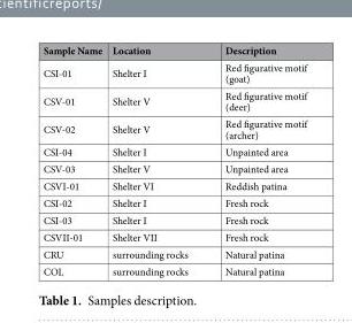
<table><thead><tr><td>Sample Name</td><td>Location</td><td>Description</td></tr></thead><tbody><tr><td>CSI-01</td><td>Shelter I</td><td>Red figurative motif (goat)</td></tr><tr><td>CSV-01</td><td>Shelter V</td><td>Red figurative motif (deer)</td></tr><tr><td>CSV-02</td><td>Shelter V</td><td>Red figurative motif (archer)</td></tr><tr><td>CSI-04</td><td>Shelter I</td><td>Unpainted area</td></tr><tr><td>CSV-03</td><td>Shelter V</td><td>Unpainted area</td></tr><tr><td>CSVI-01</td><td>Shelter VI</td><td>Reddish patina</td></tr><tr><td>CSI-02</td><td>Shelter I</td><td>Fresh rock</td></tr><tr><td>CSI-03</td><td>Shelter I</td><td>Fresh rock</td></tr><tr><td>CSVII-01</td><td>Shelter VII</td><td>Fresh rock</td></tr><tr><td>CRU</td><td>surrounding rocks</td><td>Natural patina</td></tr><tr><td>COL</td><td>surrounding rocks</td><td>Natural patina</td></tr></tbody></table>